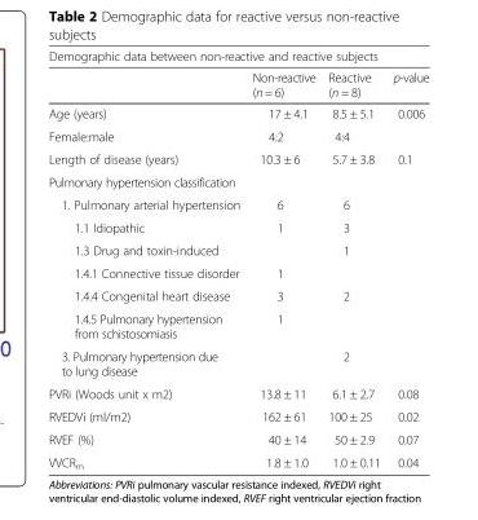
<table><thead><tr><td colspan="4">Demographic data between non-reactive and reactive subjects</td></tr><tr><td></td><td>Non-reactive (n = 6)</td><td>Reactive (n = 8)</td><td>p-value</td></tr></thead><tbody><tr><td>Age (years)</td><td>17 ± 4.1</td><td>8.5 ± 5.1</td><td>0.006</td></tr><tr><td>Female:male</td><td>4:2</td><td>4:4</td><td></td></tr><tr><td>Length of disease (years)</td><td>10.3 ± 6</td><td>5.7 ± 3.8</td><td>0.1</td></tr><tr><td colspan="4">Pulmonary hypertension classification</td></tr><tr><td>1. Pulmonary arterial hypertension</td><td>6</td><td>6</td><td></td></tr><tr><td>1.1 Idiopathic</td><td>1</td><td>3</td><td></td></tr><tr><td>1.3 Drug and toxin-induced</td><td></td><td>1</td><td></td></tr><tr><td>1.4.1 Connective tissue disorder</td><td>1</td><td></td><td></td></tr><tr><td>1.4.4 Congenital heart disease</td><td>3</td><td>2</td><td></td></tr><tr><td>1.4.5 Pulmonary hypertension from schistosomiasis</td><td>1</td><td></td><td></td></tr><tr><td>3. Pulmonary hypertension due to lung disease</td><td></td><td>2</td><td></td></tr><tr><td>PVRi (Woods unit x m2)</td><td>13.8 ± 11</td><td>6.1 ± 2.7</td><td>0.08</td></tr><tr><td>RVEDVi (ml/m2)</td><td>162 ± 61</td><td>100 ± 25</td><td>0.02</td></tr><tr><td>RVEF (%)</td><td>40 ± 14</td><td>50 ± 2.9</td><td>0.07</td></tr><tr><td>VVCR<sub>m</sub></td><td>1.8 ± 1.0</td><td>1.0 ± 0.11</td><td>0.04</td></tr></tbody></table>